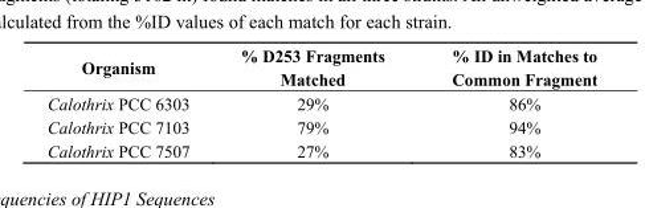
<table><thead><tr><td>Organism</td><td>% D253 Fragments Matched</td><td>% ID in Matches to Common Fragment</td></tr></thead><tbody><tr><td>Calothrix PCC 6303</td><td>29%</td><td>86%</td></tr><tr><td>Calothrix PCC 7103</td><td>79%</td><td>94%</td></tr><tr><td>Calothrix PCC 7507</td><td>27%</td><td>83%</td></tr></tbody></table>